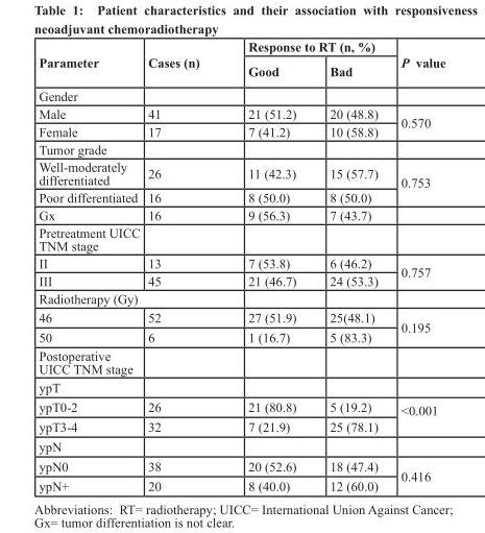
<table><thead><tr><td rowspan="2">Parameter</td><td rowspan="2">cases (n)</td><td colspan="2">response to rt (n, %)</td><td rowspan="2">P value</td></tr><tr><td>Good</td><td>bad</td></tr></thead><tbody><tr><td colspan="5">Gender</td></tr><tr><td>Male</td><td>41</td><td>21 (51.2)</td><td>20 (48.8)</td><td rowspan="2">0.570</td></tr><tr><td>Female</td><td>17</td><td>7 (41.2)</td><td>10 (58.8)</td></tr><tr><td colspan="5">Tumor grade</td></tr><tr><td>Well-moderately differentiated</td><td>26</td><td>11 (42.3)</td><td>15 (57.7)</td><td rowspan="2">0.753</td></tr><tr><td>Poor differentiated</td><td>16</td><td>8 (50.0)</td><td>8 (50.0)</td></tr><tr><td>Gx</td><td>16</td><td>9 (56.3)</td><td>7 (43.7)</td><td></td></tr><tr><td colspan="5">Pretreatment UICC TNM stage</td></tr><tr><td>II</td><td>13</td><td>7 (53.8)</td><td>6 (46.2)</td><td rowspan="2">0.757</td></tr><tr><td>III</td><td>45</td><td>21 (46.7)</td><td>24 (53.3)</td></tr><tr><td colspan="5">Radiotherapy (Gy)</td></tr><tr><td>46</td><td>52</td><td>27 (51.9)</td><td>25(48.1)</td><td rowspan="2">0.195</td></tr><tr><td>50</td><td>6</td><td>1 (16.7)</td><td>5 (83.3)</td></tr><tr><td colspan="5">Postoperative UICC TNM stage</td></tr><tr><td colspan="5">ypT</td></tr><tr><td>ypT0-2</td><td>26</td><td>21 (80.8)</td><td>5 (19.2)</td><td rowspan="2">&lt;0.001</td></tr><tr><td>ypT3-4</td><td>32</td><td>7 (21.9)</td><td>25 (78.1)</td></tr><tr><td colspan="5">ypN</td></tr><tr><td>ypN0</td><td>38</td><td>20 (52.6)</td><td>18 (47.4)</td><td rowspan="2">0.416</td></tr><tr><td>ypN+</td><td>20</td><td>8 (40.0)</td><td>12 (60.0)</td></tr></tbody></table>